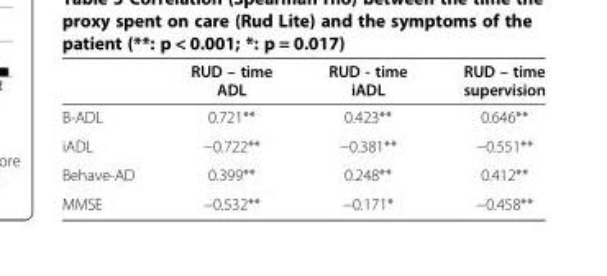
<table><thead><tr><td></td><td>RUD – time ADL</td><td>RUD - time iADL</td><td>RUD – time supervision</td></tr></thead><tbody><tr><td>B-ADL</td><td>0.721**</td><td>0.423**</td><td>0.646**</td></tr><tr><td>iADL</td><td>−0.722**</td><td>−0.381**</td><td>−0.551**</td></tr><tr><td>Behave-AD</td><td>0.399**</td><td>0.248**</td><td>0.412**</td></tr><tr><td>MMSE</td><td>−0.532**</td><td>−0.171*</td><td>−0.458**</td></tr></tbody></table>